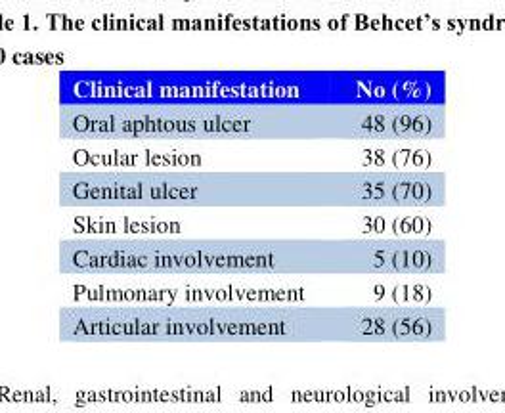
<table><thead><tr><td>Clinical manifestation</td><td>No (%)</td></tr></thead><tbody><tr><td>Oral aphtous ulcer</td><td>48 (96)</td></tr><tr><td>Ocular lesion</td><td>38 (76)</td></tr><tr><td>Genital ulcer</td><td>35 (70)</td></tr><tr><td>Skin lesion</td><td>30 (60)</td></tr><tr><td>Cardiac involvement</td><td>5 (10)</td></tr><tr><td>Pulmonary involvement</td><td>9 (18)</td></tr><tr><td>Articular involvement</td><td>28 (56)</td></tr></tbody></table>